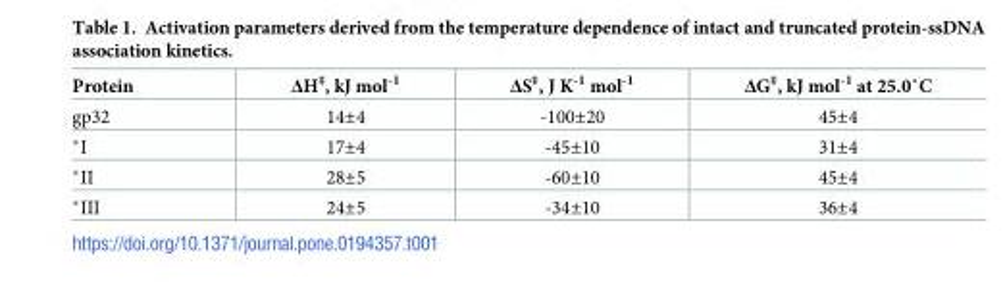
<table><thead><tr><td>Protein</td><td>ΔH<sup>‡</sup>, kJ mol<sup>-1</sup></td><td>ΔS<sup>‡</sup>, J K<sup>-1</sup> mol<sup>-1</sup></td><td>ΔG‡, kJ mol-1 at 25.0˚C</td></tr></thead><tbody><tr><td>gp32</td><td>14±4</td><td>-100±20</td><td>45±4</td></tr><tr><td>*I</td><td>17±4</td><td>-45±10</td><td>31±4</td></tr><tr><td>*II</td><td>28±5</td><td>-60±10</td><td>45±4</td></tr><tr><td>*III</td><td>24±5</td><td>-34±10</td><td>36±4</td></tr></tbody></table>